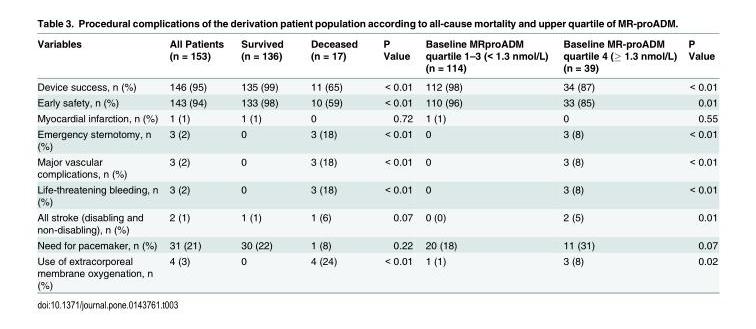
<table><thead><tr><td>Variables</td><td>All Patients (n = 153)</td><td>Survived (n = 136)</td><td>Deceased (n = 17)</td><td>P Value</td><td>Baseline MRproADM quartile 1–3 (&lt; 1.3 nmol/L) (n = 114)</td><td>Baseline MR-proADM quartile 4 (≥ 1.3 nmol/L) (n = 39)</td><td>P Value</td></tr></thead><tbody><tr><td>Device success, n (%)</td><td>146 (95)</td><td>135 (99)</td><td>11 (65)</td><td>&lt; 0.01</td><td>112 (98)</td><td>34 (87)</td><td>&lt; 0.01</td></tr><tr><td>Early safety, n (%)</td><td>143 (94)</td><td>133 (98)</td><td>10 (59)</td><td>&lt; 0.01</td><td>110 (96)</td><td>33 (85)</td><td>0.01</td></tr><tr><td>Myocardial infarction, n (%)</td><td>1 (1)</td><td>1 (1)</td><td>0</td><td>0.72</td><td>1 (1)</td><td>0</td><td>0.55</td></tr><tr><td>Emergency sternotomy, n (%)</td><td>3 (2)</td><td>0</td><td>3 (18)</td><td>&lt; 0.01</td><td>0</td><td>3 (8)</td><td>&lt; 0.01</td></tr><tr><td>Major vascular complications, n (%)</td><td>3 (2)</td><td>0</td><td>3 (18)</td><td>&lt; 0.01</td><td>0</td><td>3 (8)</td><td>&lt; 0.01</td></tr><tr><td>Life-threatening bleeding, n (%)</td><td>3 (2)</td><td>0</td><td>3 (18)</td><td>&lt; 0.01</td><td>0</td><td>3 (8)</td><td>&lt; 0.01</td></tr><tr><td>All stroke (disabling and non-disabling), n (%)</td><td>2 (1)</td><td>1 (1)</td><td>1 (6)</td><td>0.07</td><td>0 (0)</td><td>2 (5)</td><td>0.01</td></tr><tr><td>Need for pacemaker, n (%)</td><td>31 (21)</td><td>30 (22)</td><td>1 (8)</td><td>0.22</td><td>20 (18)</td><td>11 (31)</td><td>0.07</td></tr><tr><td>Use of extracorporeal membrane oxygenation, n (%)</td><td>4 (3)</td><td>0</td><td>4 (24)</td><td>&lt; 0.01</td><td>1 (1)</td><td>3 (8)</td><td>0.02</td></tr></tbody></table>